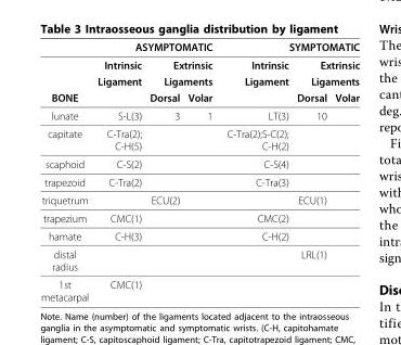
<table><thead><tr><td rowspan="4">BONE</td><td colspan="3">ASYMPTOMATIC</td><td colspan="3">SYMPTOMATIC</td></tr><tr><td rowspan="3">Intrinsic Ligament</td><td rowspan="2" colspan="2">Extrinsic Ligaments</td><td rowspan="3">Intrinsic Ligament</td><td rowspan="2" colspan="2">Extrinsic Ligaments</td></tr><tr></tr><tr><td>Dorsal</td><td>Volar</td><td>Dorsal</td><td>Volar</td></tr></thead><tbody><tr><td>lunate</td><td>S-L(3)</td><td>3</td><td>1</td><td>LT(3)</td><td>10</td><td></td></tr><tr><td>capitate</td><td>C-Tra(2); C-H(5)</td><td></td><td></td><td>C-Tra(2);S-C(2); C-H(2)</td><td></td><td></td></tr><tr><td>scaphoid</td><td>C-S(2)</td><td></td><td></td><td>C-S(4)</td><td></td><td></td></tr><tr><td>trapezoid</td><td>C-Tra(2)</td><td></td><td></td><td>C-Tra(3)</td><td></td><td></td></tr><tr><td>triquetrum</td><td></td><td>ECU(2)</td><td></td><td></td><td>ECU(1)</td><td></td></tr><tr><td>trapezium</td><td>CMC(1)</td><td></td><td></td><td>CMC(2)</td><td></td><td></td></tr><tr><td>hamate</td><td>C-H(3)</td><td></td><td></td><td>C-H(2)</td><td></td><td></td></tr><tr><td>distal radius</td><td></td><td></td><td></td><td></td><td>LRL(1)</td><td></td></tr><tr><td>1st metacarpal</td><td>CMC(1)</td><td></td><td></td><td></td><td></td><td></td></tr></tbody></table>